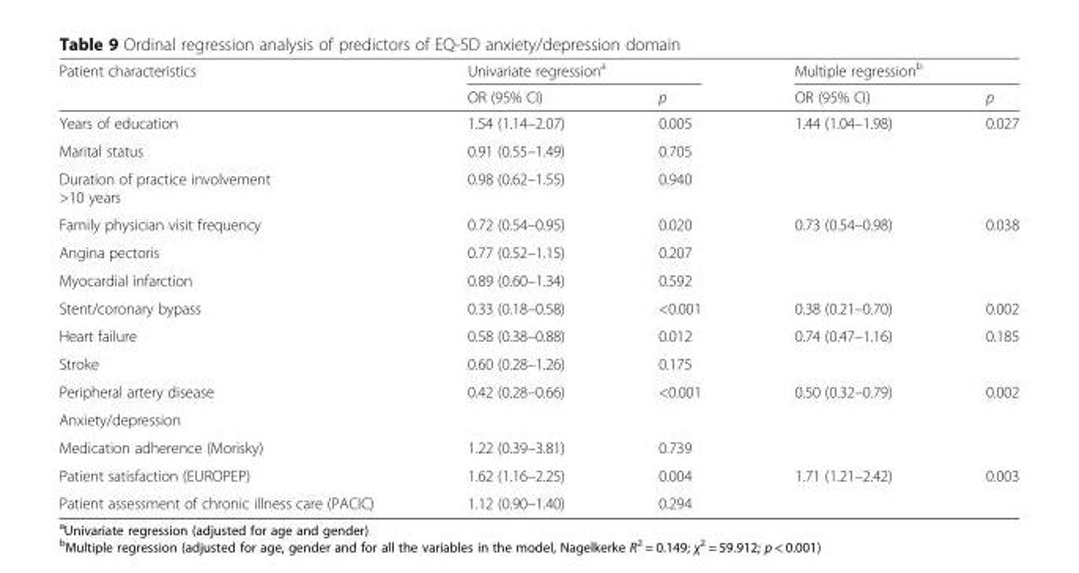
<table><thead><tr><td rowspan="2">Patient characteristics</td><td colspan="2">Univariate regression<sup>a</sup></td><td colspan="2">Multiple regression<sup>b</sup></td></tr><tr><td>OR (95% CI)</td><td>p</td><td>OR (95% CI)</td><td>p</td></tr></thead><tbody><tr><td>Years of education</td><td>1.54 (1.14–2.07)</td><td>0.005</td><td>1.44 (1.04–1.98)</td><td>0.027</td></tr><tr><td>Marital status</td><td>0.91 (0.55–1.49)</td><td>0.705</td><td></td><td></td></tr><tr><td>Duration of practice involvement &gt;10 years</td><td>0.98 (0.62–1.55)</td><td>0.940</td><td></td><td></td></tr><tr><td>Family physician visit frequency</td><td>0.72 (0.54–0.95)</td><td>0.020</td><td>0.73 (0.54–0.98)</td><td>0.038</td></tr><tr><td>Angina pectoris</td><td>0.77 (0.52–1.15)</td><td>0.207</td><td></td><td></td></tr><tr><td>Myocardial infarction</td><td>0.89 (0.60–1.34)</td><td>0.592</td><td></td><td></td></tr><tr><td>Stent/coronary bypass</td><td>0.33 (0.18–0.58)</td><td>&lt;0.001</td><td>0.38 (0.21–0.70)</td><td>0.002</td></tr><tr><td>Heart failure</td><td>0.58 (0.38–0.88)</td><td>0.012</td><td>0.74 (0.47–1.16)</td><td>0.185</td></tr><tr><td>Stroke</td><td>0.60 (0.28–1.26)</td><td>0.175</td><td></td><td></td></tr><tr><td>Peripheral artery disease</td><td>0.42 (0.28–0.66)</td><td>&lt;0.001</td><td>0.50 (0.32–0.79)</td><td>0.002</td></tr><tr><td colspan="5">Anxiety/depression</td></tr><tr><td>Medication adherence (Morisky)</td><td>1.22 (0.39–3.81)</td><td>0.739</td><td></td><td></td></tr><tr><td>Patient satisfaction (EUROPEP)</td><td>1.62 (1.16–2.25)</td><td>0.004</td><td>1.71 (1.21–2.42)</td><td>0.003</td></tr><tr><td>Patient assessment of chronic illness care (PACIC)</td><td>1.12 (0.90–1.40)</td><td>0.294</td><td></td><td></td></tr></tbody></table>